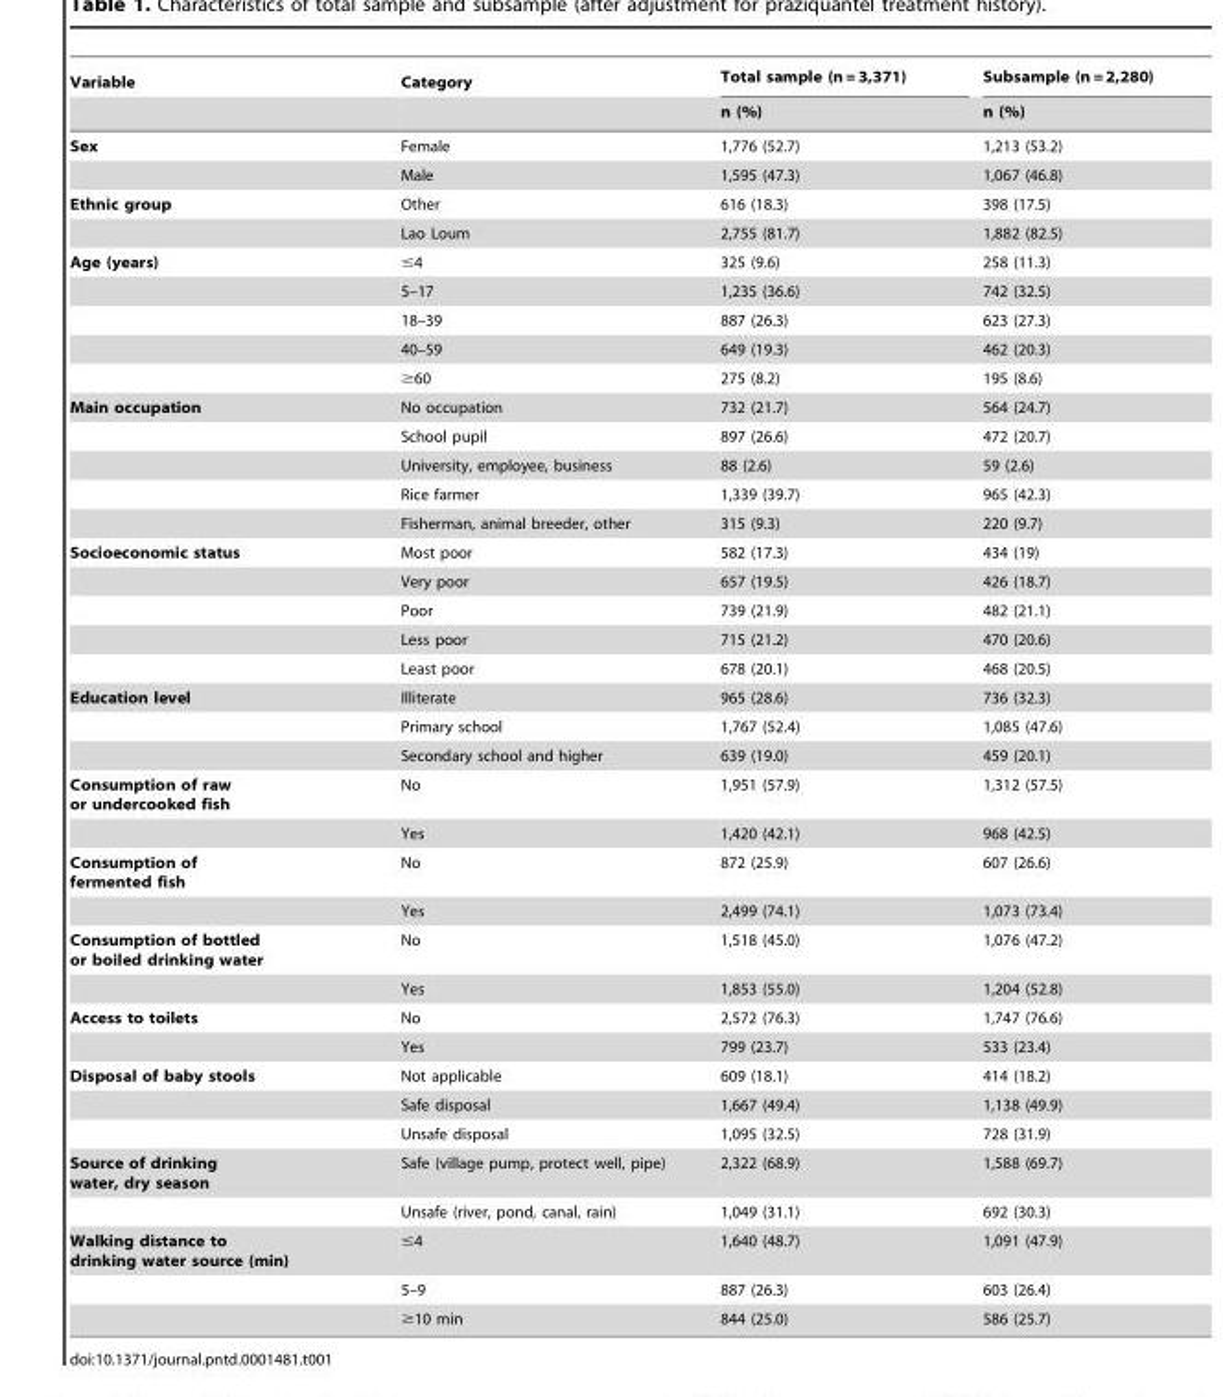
<table><thead><tr><td rowspan="2">Variable</td><td rowspan="2">Category</td><td rowspan="2">Total sample (n = 3,371) n (%)</td><td rowspan="2">Subsample (n = 2,280) n (%)</td></tr><tr></tr></thead><tbody><tr><td rowspan="2">Sex</td><td>Female</td><td>1,776 (52.7)</td><td>1,213 (53.2)</td></tr><tr><td>Male</td><td>1,595 (47.3)</td><td>1,067 (46.8)</td></tr><tr><td rowspan="2">Ethnic group</td><td>Other</td><td>616 (18.3)</td><td>398 (17.5)</td></tr><tr><td>Lao Loum</td><td>2,755 (81.7)</td><td>1,882 (82.5)</td></tr><tr><td rowspan="5">Age (years)</td><td>≤4</td><td>325 (9.6)</td><td>258 (11.3)</td></tr><tr><td>5–17</td><td>1,235 (36.6)</td><td>742 (32.5)</td></tr><tr><td>18–39</td><td>887 (26.3)</td><td>623 (27.3)</td></tr><tr><td>40–59</td><td>649 (19.3)</td><td>462 (20.3)</td></tr><tr><td>≥60</td><td>275 (8.2)</td><td>195 (8.6)</td></tr><tr><td rowspan="5">Main occupation</td><td>No occupation</td><td>732 (21.7)</td><td>564 (24.7)</td></tr><tr><td>School pupil</td><td>897 (26.6)</td><td>472 (20.7)</td></tr><tr><td>University, employee, business</td><td>88 (2.6)</td><td>59 (2.6)</td></tr><tr><td>Rice farmer</td><td>1,339 (39.7)</td><td>965 (42.3)</td></tr><tr><td>Fisherman, animal breeder, other</td><td>315 (9.3)</td><td>220 (9.7)</td></tr><tr><td rowspan="5">Socioeconomic status</td><td>Most poor</td><td>582 (17.3)</td><td>434 (19)</td></tr><tr><td>Very poor</td><td>657 (19.5)</td><td>426 (18.7)</td></tr><tr><td>Poor</td><td>739 (21.9)</td><td>482 (21.1)</td></tr><tr><td>Less poor</td><td>715 (21.2)</td><td>470 (20.6)</td></tr><tr><td>Least poor</td><td>678 (20.1)</td><td>468 (20.5)</td></tr><tr><td rowspan="3">Education level</td><td>Illiterate</td><td>965 (28.6)</td><td>736 (32.3)</td></tr><tr><td>Primary school</td><td>1,767 (52.4)</td><td>1,085 (47.6)</td></tr><tr><td>Secondary school and higher</td><td>639 (19.0)</td><td>459 (20.1)</td></tr><tr><td rowspan="2">Consumption of raw or undercooked fish</td><td>No</td><td>1,951 (57.9)</td><td>1,312 (57.5)</td></tr><tr><td>Yes</td><td>1,420 (42.1)</td><td>968 (42.5)</td></tr><tr><td rowspan="2">Consumption of fermented fish</td><td>No</td><td>872 (25.9)</td><td>607 (26.6)</td></tr><tr><td>Yes</td><td>2,499 (74.1)</td><td>1,073 (73.4)</td></tr><tr><td rowspan="2">Consumption of bottled or boiled drinking water</td><td>No</td><td>1,518 (45.0)</td><td>1,076 (47.2)</td></tr><tr><td>Yes</td><td>1,853 (55.0)</td><td>1,204 (52.8)</td></tr><tr><td rowspan="2">Access to toilets</td><td>No</td><td>2,572 (76.3)</td><td>1,747 (76.6)</td></tr><tr><td>Yes</td><td>799 (23.7)</td><td>533 (23.4)</td></tr><tr><td rowspan="3">Disposal of baby stools</td><td>Not applicable</td><td>609 (18.1)</td><td>414 (18.2)</td></tr><tr><td>Safe disposal</td><td>1,667 (49.4)</td><td>1,138 (49.9)</td></tr><tr><td>Unsafe disposal</td><td>1,095 (32.5)</td><td>728 (31.9)</td></tr><tr><td rowspan="2">Source of drinking water, dry season</td><td>Safe (village pump, protect well, pipe)</td><td>2,322 (68.9)</td><td>1,588 (69.7)</td></tr><tr><td>Unsafe (river, pond, canal, rain)</td><td>1,049 (31.1)</td><td>692 (30.3)</td></tr><tr><td rowspan="3">Walking distance to drinking water source (min)</td><td>≤4</td><td>1,640 (48.7)</td><td>1,091 (47.9)</td></tr><tr><td>5–9</td><td>887 (26.3)</td><td>603 (26.4)</td></tr><tr><td>≥10 min</td><td>844 (25.0)</td><td>586 (25.7)</td></tr></tbody></table>